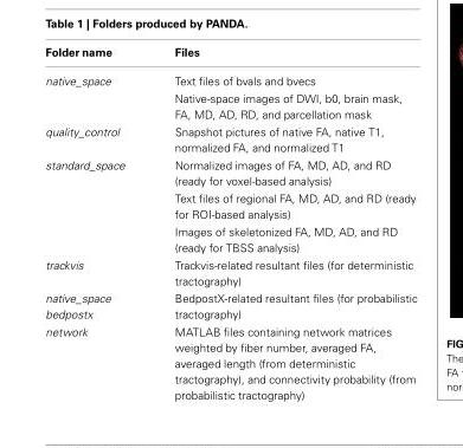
<table><thead><tr><td>Folder name</td><td>Files</td></tr></thead><tbody><tr><td rowspan="2">native_space</td><td>Text files of bvals and bvecs</td></tr><tr><td>Native-space images of DWI, b0, brain mask, FA, MD, AD, RD, and parcellation mask</td></tr><tr><td>quality_control</td><td>Snapshot pictures of native FA, native T1, normalized FA, and normalized T1</td></tr><tr><td rowspan="3">standard_space</td><td>Normalized images of FA, MD, AD, and RD (ready for voxel-based analysis)</td></tr><tr><td>Text files of regional FA, MD, AD, and RD (ready for ROI-based analysis)</td></tr><tr><td>Images of skeletonized FA, MD, AD, and RD (ready for TBSS analysis)</td></tr><tr><td>trackvis</td><td>Trackvis-related resultant files (for deterministic tractography)</td></tr><tr><td>native_space bedpostx</td><td>BedpostX-related resultant files (for probabilistic tractography)</td></tr><tr><td>network</td><td>MATLAB files containing network matrices weighted by fiber number, averaged FA, averaged length (from deterministic tractography), and connectivity probability (from probabilistic tractography)</td></tr></tbody></table>